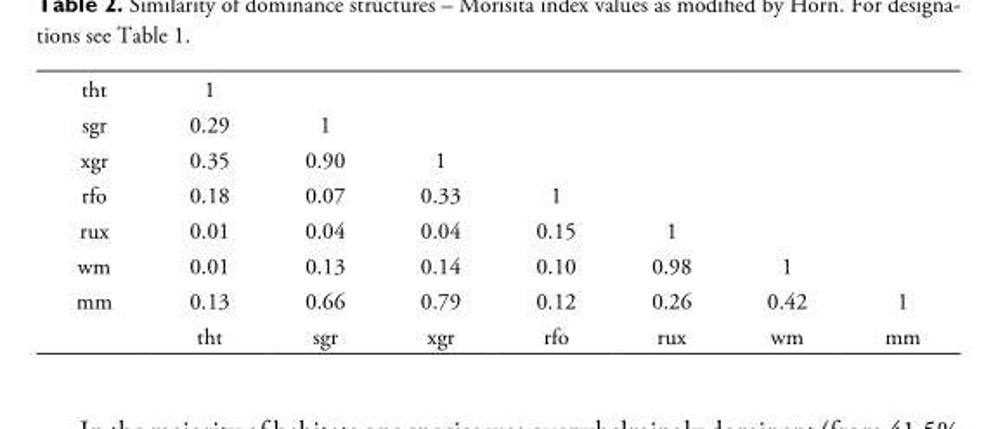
<table><tbody><tr><td>tht</td><td>1</td><td></td><td></td><td></td><td></td><td></td><td></td></tr><tr><td>sgr</td><td>0.29</td><td>1</td><td></td><td></td><td></td><td></td><td></td></tr><tr><td>xgr</td><td>0.35</td><td>0.90</td><td>1</td><td></td><td></td><td></td><td></td></tr><tr><td>rfo</td><td>0.18</td><td>0.07</td><td>0.33</td><td>1</td><td></td><td></td><td></td></tr><tr><td>rux</td><td>0.01</td><td>0.04</td><td>0.04</td><td>0.15</td><td>1</td><td></td><td></td></tr><tr><td>wm</td><td>0.01</td><td>0.13</td><td>0.14</td><td>0.10</td><td>0.98</td><td>1</td><td></td></tr><tr><td rowspan="2">mm</td><td>0.13</td><td>0.66</td><td>0.79</td><td>0.12</td><td>0.26</td><td>0.42</td><td>1</td></tr><tr><td>tht</td><td>sgr</td><td>xgr</td><td>rfo</td><td>rux</td><td>wm</td><td>mm</td></tr></tbody></table>